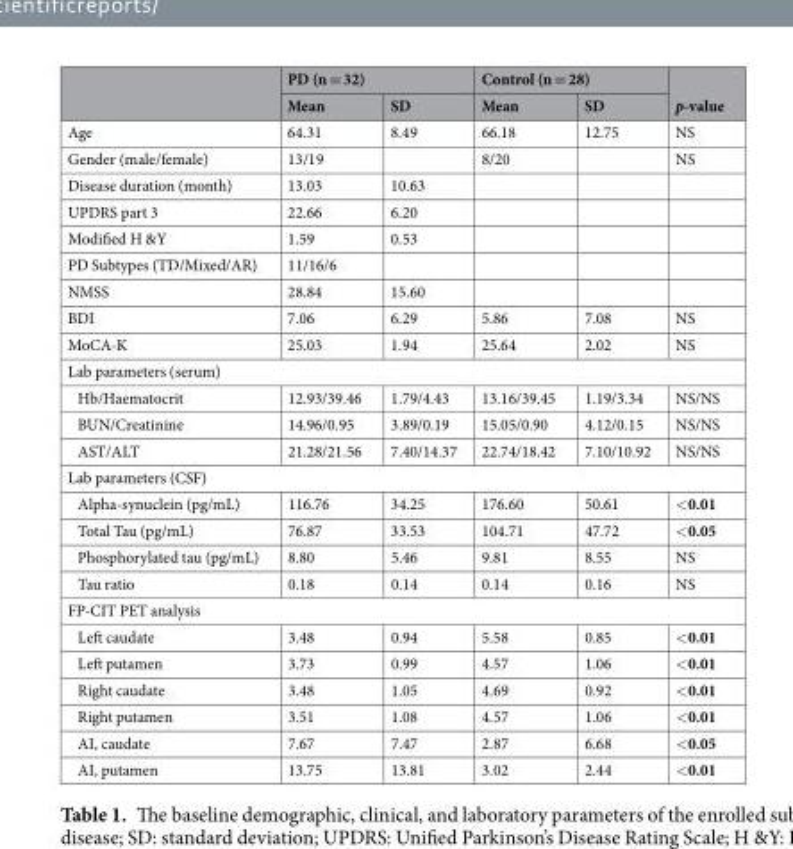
<table><thead><tr><td rowspan="2"></td><td colspan="2">PD (n = 32)</td><td colspan="2">Control (n = 28)</td><td rowspan="2">p-value</td></tr><tr><td>Mean</td><td>SD</td><td>Mean</td><td>SD</td></tr></thead><tbody><tr><td>Age</td><td>64.31</td><td>8.49</td><td>66.18</td><td>12.75</td><td>NS</td></tr><tr><td>Gender (male/female)</td><td>13/19</td><td></td><td>8/20</td><td></td><td>NS</td></tr><tr><td>Disease duration (month)</td><td>13.03</td><td>10.63</td><td></td><td></td><td></td></tr><tr><td>UPDRS part 3</td><td>22.66</td><td>6.20</td><td></td><td></td><td></td></tr><tr><td>Modified H &amp;Y</td><td>1.59</td><td>0.53</td><td></td><td></td><td></td></tr><tr><td>PD Subtypes (TD/Mixed/AR)</td><td>11/16/6</td><td></td><td></td><td></td><td></td></tr><tr><td>NMSS</td><td>28.84</td><td>15.60</td><td></td><td></td><td></td></tr><tr><td>BDI</td><td>7.06</td><td>6.29</td><td>5.86</td><td>7.08</td><td>NS</td></tr><tr><td>MoCA-K</td><td>25.03</td><td>1.94</td><td>25.64</td><td>2.02</td><td>NS</td></tr><tr><td colspan="6">Lab parameters (serum)</td></tr><tr><td>Hb/Haematocrit</td><td>12.93/39.46</td><td>1.79/4.43</td><td>13.16/39.45</td><td>1.19/3.34</td><td>NS/NS</td></tr><tr><td>BUN/Creatinine</td><td>14.96/0.95</td><td>3.89/0.19</td><td>15.05/0.90</td><td>4.12/0.15</td><td>NS/NS</td></tr><tr><td>AST/ALT</td><td>21.28/21.56</td><td>7.40/14.37</td><td>22.74/18.42</td><td>7.10/10.92</td><td>NS/NS</td></tr><tr><td colspan="6">Lab parameters (CSF)</td></tr><tr><td>Alpha-synuclein (pg/mL)</td><td>116.76</td><td>34.25</td><td>176.60</td><td>50.61</td><td>&lt;0.01</td></tr><tr><td>Total Tau (pg/mL)</td><td>76.87</td><td>33.53</td><td>104.71</td><td>47.72</td><td>&lt;0.05</td></tr><tr><td>Phosphorylated tau (pg/mL)</td><td>8.80</td><td>5.46</td><td>9.81</td><td>8.55</td><td>NS</td></tr><tr><td>Tau ratio</td><td>0.18</td><td>0.14</td><td>0.14</td><td>0.16</td><td>NS</td></tr><tr><td colspan="6">FP-CIT PET analysis</td></tr><tr><td>Left caudate</td><td>3.48</td><td>0.94</td><td>5.58</td><td>0.85</td><td>&lt;0.01</td></tr><tr><td>Left putamen</td><td>3.73</td><td>0.99</td><td>4.57</td><td>1.06</td><td>&lt;0.01</td></tr><tr><td>Right caudate</td><td>3.48</td><td>1.05</td><td>4.69</td><td>0.92</td><td>&lt;0.01</td></tr><tr><td>Right putamen</td><td>3.51</td><td>1.08</td><td>4.57</td><td>1.06</td><td>&lt;0.01</td></tr><tr><td>AI, caudate</td><td>7.67</td><td>7.47</td><td>2.87</td><td>6.68</td><td>&lt;0.05</td></tr><tr><td>AI, putamen</td><td>13.75</td><td>13.81</td><td>3.02</td><td>2.44</td><td>&lt;0.01</td></tr></tbody></table>